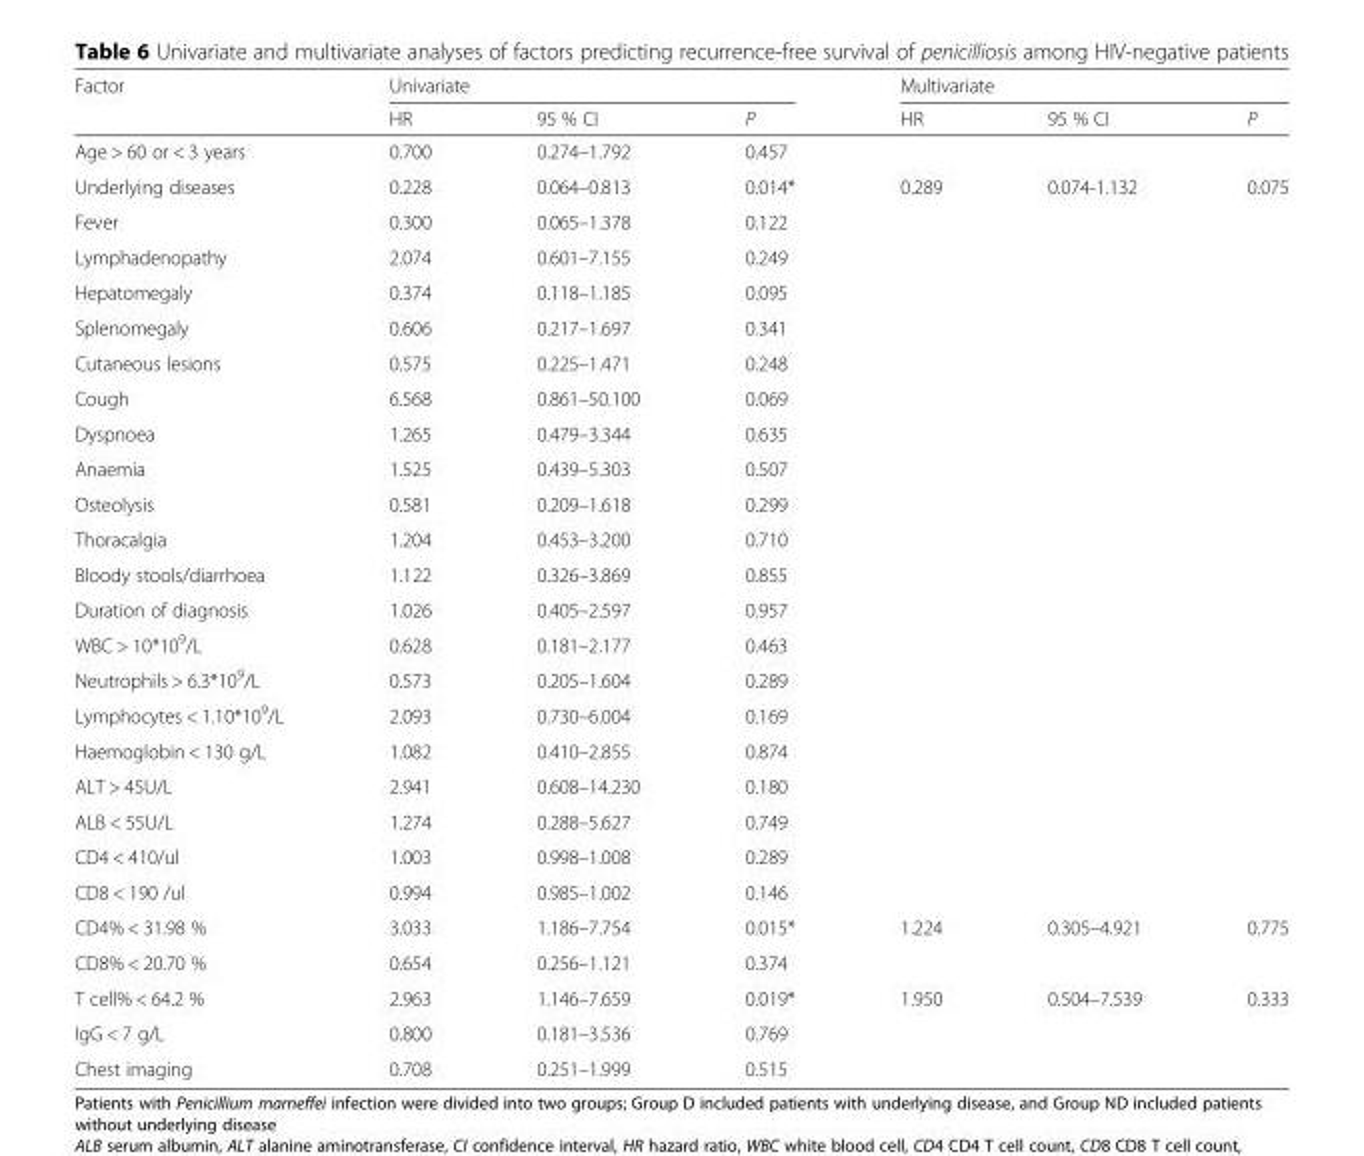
<table><thead><tr><td rowspan="2">Factor</td><td colspan="3">Univariate</td><td colspan="3">Multivariate</td></tr><tr><td>HR</td><td>95 % CI</td><td>P</td><td>HR</td><td>95 % CI</td><td>P</td></tr></thead><tbody><tr><td>Age &gt; 60 or &lt; 3 years</td><td>0.700</td><td>0.274–1.792</td><td>0.457</td><td></td><td></td><td></td></tr><tr><td>Underlying diseases</td><td>0.228</td><td>0.064–0.813</td><td>0.014*</td><td>0.289</td><td>0.074-1.132</td><td>0.075</td></tr><tr><td>Fever</td><td>0.300</td><td>0.065–1.378</td><td>0.122</td><td></td><td></td><td></td></tr><tr><td>Lymphadenopathy</td><td>2.074</td><td>0.601–7.155</td><td>0.249</td><td></td><td></td><td></td></tr><tr><td>Hepatomegaly</td><td>0.374</td><td>0.118–1.185</td><td>0.095</td><td></td><td></td><td></td></tr><tr><td>Splenomegaly</td><td>0.606</td><td>0.217–1.697</td><td>0.341</td><td></td><td></td><td></td></tr><tr><td>Cutaneous lesions</td><td>0.575</td><td>0.225–1.471</td><td>0.248</td><td></td><td></td><td></td></tr><tr><td>Cough</td><td>6.568</td><td>0.861–50.100</td><td>0.069</td><td></td><td></td><td></td></tr><tr><td>Dyspnoea</td><td>1.265</td><td>0.479–3.344</td><td>0.635</td><td></td><td></td><td></td></tr><tr><td>Anaemia</td><td>1.525</td><td>0.439–5.303</td><td>0.507</td><td></td><td></td><td></td></tr><tr><td>Osteolysis</td><td>0.581</td><td>0.209–1.618</td><td>0.299</td><td></td><td></td><td></td></tr><tr><td>Thoracalgia</td><td>1.204</td><td>0.453–3.200</td><td>0.710</td><td></td><td></td><td></td></tr><tr><td>Bloody stools/diarrhoea</td><td>1.122</td><td>0.326–3.869</td><td>0.855</td><td></td><td></td><td></td></tr><tr><td>Duration of diagnosis</td><td>1.026</td><td>0.405–2.597</td><td>0.957</td><td></td><td></td><td></td></tr><tr><td>WBC &gt; 10*10<sup>9</sup>/L</td><td>0.628</td><td>0.181–2.177</td><td>0.463</td><td></td><td></td><td></td></tr><tr><td>Neutrophils &gt; 6.3*10<sup>9</sup>/L</td><td>0.573</td><td>0.205–1.604</td><td>0.289</td><td></td><td></td><td></td></tr><tr><td>Lymphocytes &lt; 1.10*10<sup>9</sup>/L</td><td>2.093</td><td>0.730–6.004</td><td>0.169</td><td></td><td></td><td></td></tr><tr><td>Haemoglobin &lt; 130 g/L</td><td>1.082</td><td>0.410–2.855</td><td>0.874</td><td></td><td></td><td></td></tr><tr><td>ALT &gt; 45U/L</td><td>2.941</td><td>0.608–14.230</td><td>0.180</td><td></td><td></td><td></td></tr><tr><td>ALB &lt; 55U/L</td><td>1.274</td><td>0.288–5.627</td><td>0.749</td><td></td><td></td><td></td></tr><tr><td>CD4 &lt; 410/ul</td><td>1.003</td><td>0.998–1.008</td><td>0.289</td><td></td><td></td><td></td></tr><tr><td>CD8 &lt; 190 /ul</td><td>0.994</td><td>0.985–1.002</td><td>0.146</td><td></td><td></td><td></td></tr><tr><td>CD4% &lt; 31.98 %</td><td>3.033</td><td>1.186–7.754</td><td>0.015*</td><td>1.224</td><td>0.305–4.921</td><td>0.775</td></tr><tr><td>CD8% &lt; 20.70 %</td><td>0.654</td><td>0.256–1.121</td><td>0.374</td><td></td><td></td><td></td></tr><tr><td>T cell% &lt; 64.2 %</td><td>2.963</td><td>1.146–7.659</td><td>0.019*</td><td>1.950</td><td>0.504–7.539</td><td>0.333</td></tr><tr><td>IgG &lt; 7 g/L</td><td>0.800</td><td>0.181–3.536</td><td>0.769</td><td></td><td></td><td></td></tr><tr><td>Chest imaging</td><td>0.708</td><td>0.251–1.999</td><td>0.515</td><td></td><td></td><td></td></tr></tbody></table>